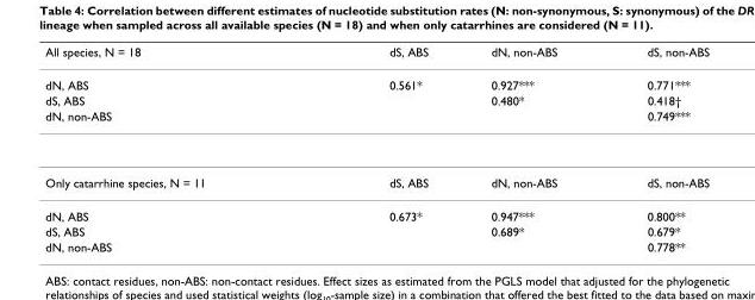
<table><thead><tr><td>All species, N = 18</td><td>dS, ABS</td><td>dN, non-ABS</td><td>dS, non-ABS</td></tr></thead><tbody><tr><td>dN, ABS</td><td>0.561*</td><td>0.927***</td><td>0.771***</td></tr><tr><td>dS, ABS</td><td></td><td>0.480*</td><td>0.418†</td></tr><tr><td>dN, non-ABS</td><td></td><td></td><td>0.749***</td></tr><tr><td>Only catarrhine species, N = 11</td><td>dS, ABS</td><td>dN, non-ABS</td><td>dS, non-ABS</td></tr><tr><td>dN, ABS</td><td>0.673*</td><td>0.947***</td><td>0.800**</td></tr><tr><td>dS, ABS</td><td></td><td>0.689*</td><td>0.679*</td></tr><tr><td>dN, non-ABS</td><td></td><td></td><td>0.778**</td></tr></tbody></table>